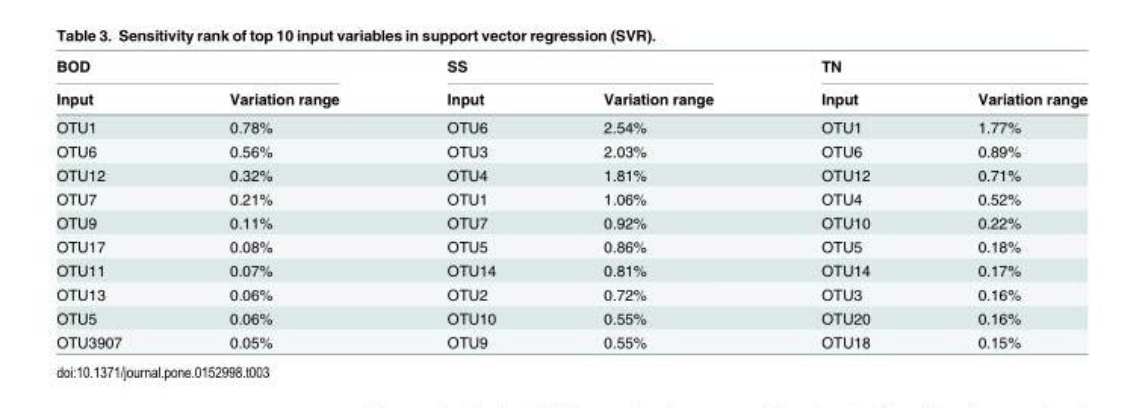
<table><thead><tr><td colspan="2">BOD</td><td colspan="2">SS</td><td colspan="2">TN</td></tr><tr><td>Input</td><td>Variation range</td><td>Input</td><td>Variation range</td><td>Input</td><td>Variation range</td></tr></thead><tbody><tr><td>OTU1</td><td>0.78%</td><td>OTU6</td><td>2.54%</td><td>OTU1</td><td>1.77%</td></tr><tr><td>OTU6</td><td>0.56%</td><td>OTU3</td><td>2.03%</td><td>OTU6</td><td>0.89%</td></tr><tr><td>OTU12</td><td>0.32%</td><td>OTU4</td><td>1.81%</td><td>OTU12</td><td>0.71%</td></tr><tr><td>OTU7</td><td>0.21%</td><td>OTU1</td><td>1.06%</td><td>OTU4</td><td>0.52%</td></tr><tr><td>OTU9</td><td>0.11%</td><td>OTU7</td><td>0.92%</td><td>OTU10</td><td>0.22%</td></tr><tr><td>OTU17</td><td>0.08%</td><td>OTU5</td><td>0.86%</td><td>OTU5</td><td>0.18%</td></tr><tr><td>OTU11</td><td>0.07%</td><td>OTU14</td><td>0.81%</td><td>OTU14</td><td>0.17%</td></tr><tr><td>OTU13</td><td>0.06%</td><td>OTU2</td><td>0.72%</td><td>OTU3</td><td>0.16%</td></tr><tr><td>OTU5</td><td>0.06%</td><td>OTU10</td><td>0.55%</td><td>OTU20</td><td>0.16%</td></tr><tr><td>OTU3907</td><td>0.05%</td><td>OTU9</td><td>0.55%</td><td>OTU18</td><td>0.15%</td></tr></tbody></table>